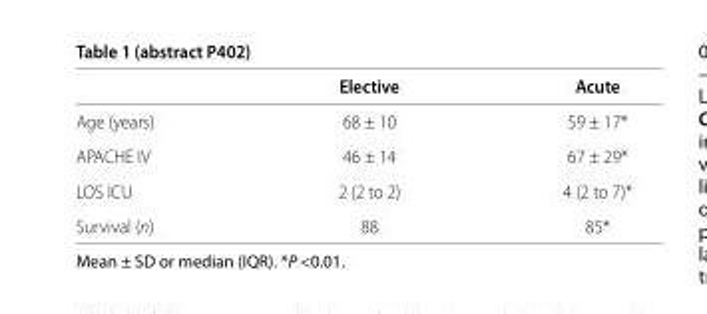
<table><thead><tr><td></td><td>Elective</td><td>Acute</td></tr></thead><tbody><tr><td>Age (years)</td><td>68 ± 10</td><td>59 ± 17*</td></tr><tr><td>APACHE IV</td><td>46 ± 14</td><td>67 ± 29*</td></tr><tr><td>LOS ICU</td><td>2 (2 to 2)</td><td>4 (2 to 7)*</td></tr><tr><td>Survival (n)</td><td>88</td><td>85*</td></tr></tbody></table>